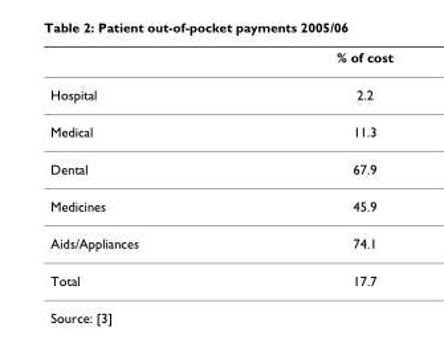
<table><thead><tr><td></td><td>% of cost</td></tr></thead><tbody><tr><td>Hospital</td><td>2.2</td></tr><tr><td>Medical</td><td>11.3</td></tr><tr><td>Dental</td><td>67.9</td></tr><tr><td>Medicines</td><td>45.9</td></tr><tr><td>Aids/Appliances</td><td>74.1</td></tr><tr><td>Total</td><td>17.7</td></tr></tbody></table>